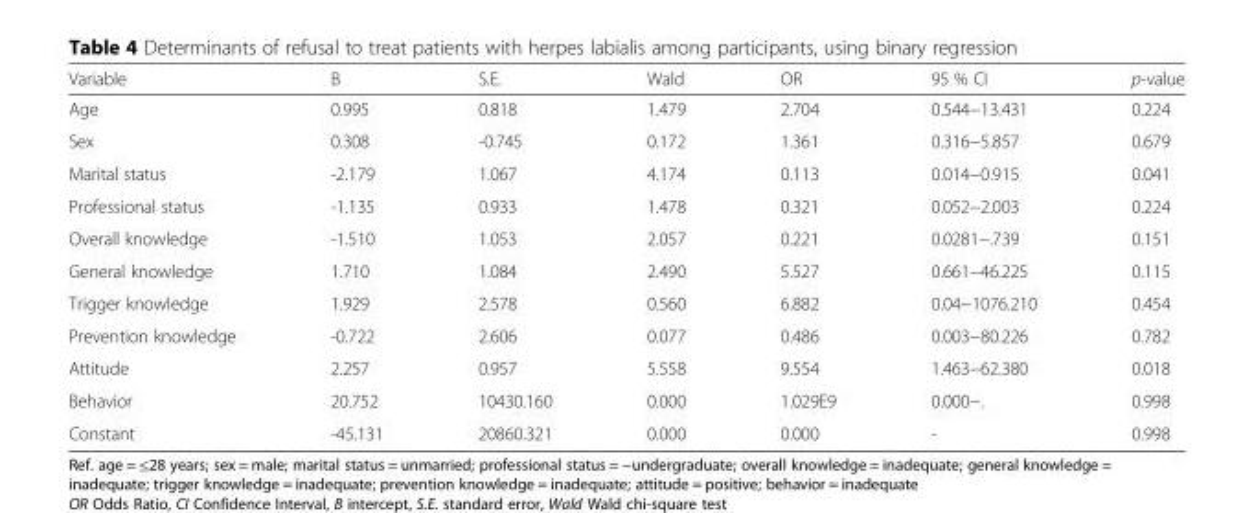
<table><thead><tr><td>Variable</td><td>B</td><td>S.E.</td><td>Wald</td><td>OR</td><td>95 % CI</td><td>p-value</td></tr></thead><tbody><tr><td>Age</td><td>0.995</td><td>0.818</td><td>1.479</td><td>2.704</td><td>0.544−13.431</td><td>0.224</td></tr><tr><td>Sex</td><td>0.308</td><td>-0.745</td><td>0.172</td><td>1.361</td><td>0.316−5.857</td><td>0.679</td></tr><tr><td>Marital status</td><td>-2.179</td><td>1.067</td><td>4.174</td><td>0.113</td><td>0.014−0.915</td><td>0.041</td></tr><tr><td>Professional status</td><td>-1.135</td><td>0.933</td><td>1.478</td><td>0.321</td><td>0.052−2.003</td><td>0.224</td></tr><tr><td>Overall knowledge</td><td>-1.510</td><td>1.053</td><td>2.057</td><td>0.221</td><td>0.0281−.739</td><td>0.151</td></tr><tr><td>General knowledge</td><td>1.710</td><td>1.084</td><td>2.490</td><td>5.527</td><td>0.661−46.225</td><td>0.115</td></tr><tr><td>Trigger knowledge</td><td>1.929</td><td>2.578</td><td>0.560</td><td>6.882</td><td>0.04−1076.210</td><td>0.454</td></tr><tr><td>Prevention knowledge</td><td>-0.722</td><td>2.606</td><td>0.077</td><td>0.486</td><td>0.003−80.226</td><td>0.782</td></tr><tr><td>Attitude</td><td>2.257</td><td>0.957</td><td>5.558</td><td>9.554</td><td>1.463−62.380</td><td>0.018</td></tr><tr><td>Behavior</td><td>20.752</td><td>10430.160</td><td>0.000</td><td>1.029E9</td><td>0.000−.</td><td>0.998</td></tr><tr><td>Constant</td><td>-45.131</td><td>20860.321</td><td>0.000</td><td>0.000</td><td>-</td><td>0.998</td></tr></tbody></table>